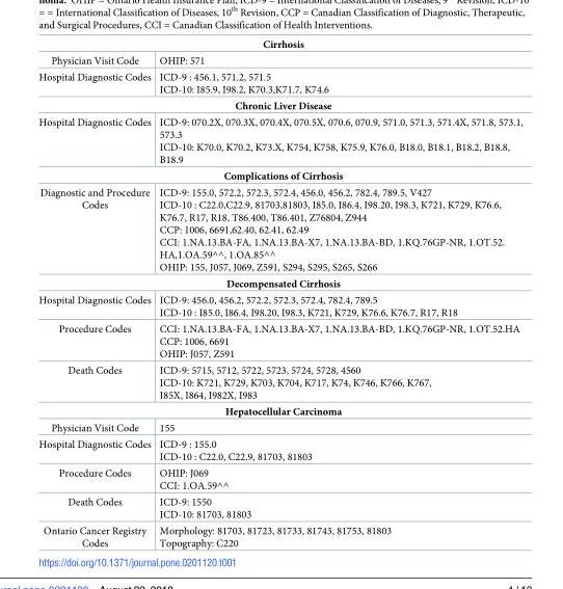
<table><tbody><tr><td colspan="2">Cirrhosis</td></tr><tr><td>Physician Visit Code</td><td>OHIP: 571</td></tr><tr><td>Hospital Diagnostic Codes</td><td>ICD-9 : 456.1, 571.2, 571.5 ICD-10: I85.9, I98.2, K70.3,K71.7, K74.6</td></tr><tr><td colspan="2">Chronic Liver Disease</td></tr><tr><td>Hospital Diagnostic Codes</td><td>ICD-9: 070.2X, 070.3X, 070.4X, 070.5X, 070.6, 070.9, 571.0, 571.3, 571.4X, 571.8, 573.1, 573.3 ICD-10: K70.0, K70.2, K73.X, K754, K758, K75.9, K76.0, B18.0, B18.1, B18.2, B18.8, B18.9</td></tr><tr><td colspan="2">Complications of Cirrhosis</td></tr><tr><td>Diagnostic and Procedure Codes</td><td>ICD-9: 155.0, 572.2, 572.3, 572.4, 456.0, 456.2, 782.4, 789.5, V427 ICD-10 : C22.0,C22.9, 81703,81803, I85.0, I86.4, I98.20, I98.3, K721, K729, K76.6, K76.7, R17, R18, T86.400, T86.401, Z76804, Z944 CCP: 1006, 6691,62.40, 62.41, 62.49 CCI: 1.NA.13.BA-FA, 1.NA.13.BA-X7, 1.NA.13.BA-BD, 1.KQ.76GP-NR, 1.OT.52. HA,1.OA.59^^, 1.OA.85^^ OHIP: 155, J057, J069, Z591, S294, S295, S265, S266</td></tr><tr><td colspan="2">Decompensated Cirrhosis</td></tr><tr><td>Hospital Diagnostic Codes</td><td>ICD-9: 456.0, 456.2, 572.2, 572.3, 572.4, 782.4, 789.5 ICD-10 : I85.0, I86.4, I98.20, I98.3, K721, K729, K76.6, K76.7, R17, R18</td></tr><tr><td>Procedure Codes</td><td>CCI: 1.NA.13.BA-FA, 1.NA.13.BA-X7, 1.NA.13.BA-BD, 1.KQ.76GP-NR, 1.OT.52.HA CCP: 1006, 6691 OHIP: J057, Z591</td></tr><tr><td>Death Codes</td><td>ICD-9: 5715, 5712, 5722, 5723, 5724, 5728, 4560 ICD-10: K721, K729, K703, K704, K717, K74, K746, K766, K767, I85X, I864, I982X, I983</td></tr><tr><td colspan="2">Hepatocellular Carcinoma</td></tr><tr><td>Physician Visit Code</td><td>155</td></tr><tr><td>Hospital Diagnostic Codes</td><td>ICD-9 : 155.0 ICD-10 : C22.0, C22.9, 81703, 81803</td></tr><tr><td>Procedure Codes</td><td>OHIP: J069 CCI: 1.OA.59^^</td></tr><tr><td>Death Codes</td><td>ICD-9: 1550 ICD-10: 81703, 81803</td></tr><tr><td>Ontario Cancer Registry Codes</td><td>Morphology: 81703, 81723, 81733, 81743, 81753, 81803 Topography: C220</td></tr></tbody></table>